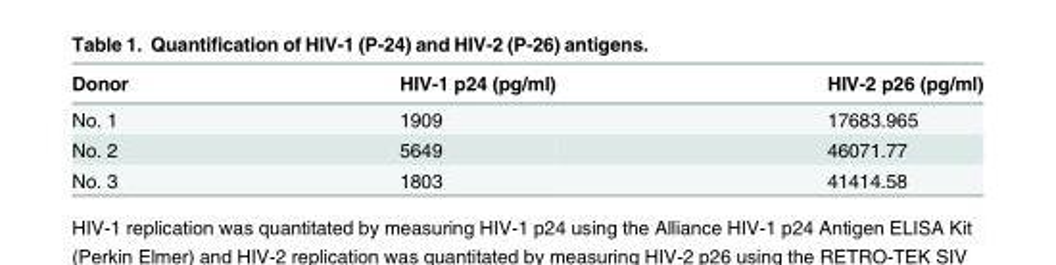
<table><thead><tr><td>Donor</td><td>HIV-1 p24 (pg/ml)</td><td>HIV-2 p26 (pg/ml)</td></tr></thead><tbody><tr><td>No. 1</td><td>1909</td><td>17683.965</td></tr><tr><td>No. 2</td><td>5649</td><td>46071.77</td></tr><tr><td>No. 3</td><td>1803</td><td>41414.58</td></tr></tbody></table>